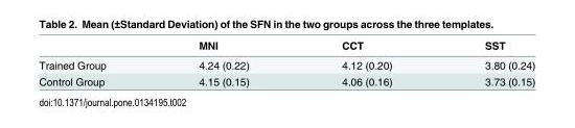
<table><thead><tr><td></td><td>MNI</td><td>CCT</td><td>SST</td></tr></thead><tbody><tr><td>Trained Group</td><td>4.24 (0.22)</td><td>4.12 (0.20)</td><td>3.80 (0.24)</td></tr><tr><td>Control Group</td><td>4.15 (0.15)</td><td>4.06 (0.16)</td><td>3.73 (0.15)</td></tr></tbody></table>